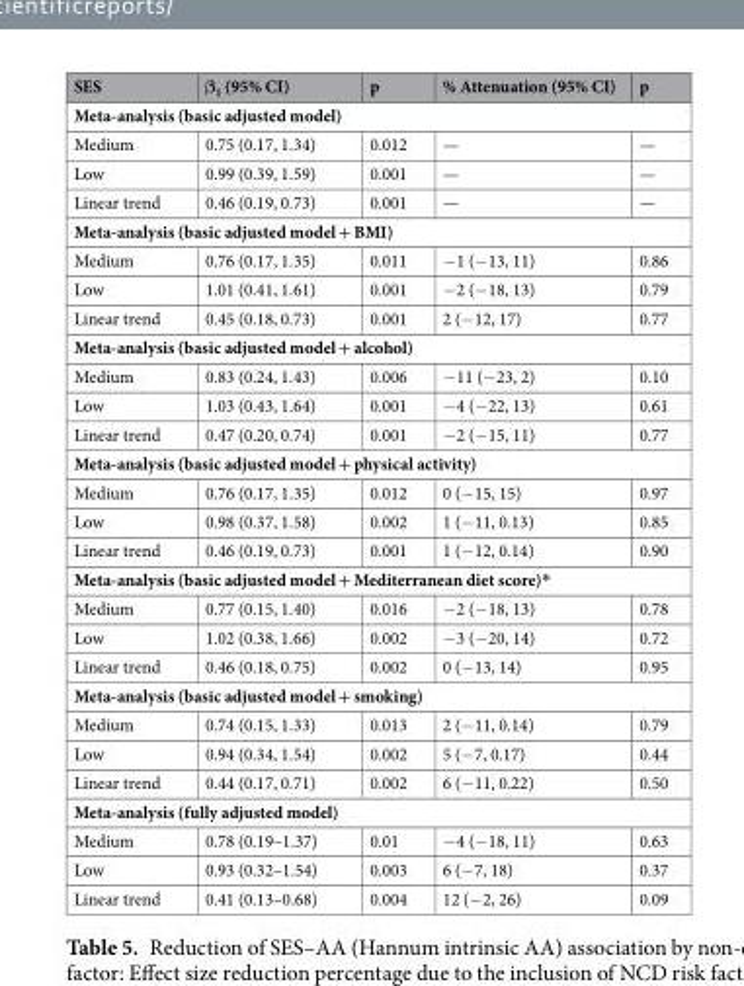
<table><thead><tr><td>SES</td><td>β<sub>1</sub> (95% CI)</td><td>p</td><td>% Attenuation (95% CI)</td><td>p</td></tr></thead><tbody><tr><td colspan="5">Meta-analysis (basic adjusted model)</td></tr><tr><td>Medium</td><td>0.75 (0.17, 1.34)</td><td>0.012</td><td>—</td><td>—</td></tr><tr><td>Low</td><td>0.99 (0.39, 1.59)</td><td>0.001</td><td>—</td><td>—</td></tr><tr><td>Linear trend</td><td>0.46 (0.19, 0.73)</td><td>0.001</td><td>—</td><td>—</td></tr><tr><td colspan="5">Meta-analysis (basic adjusted model + BMI)</td></tr><tr><td>Medium</td><td>0.76 (0.17, 1.35)</td><td>0.011</td><td>−1 (−13, 11)</td><td>0.86</td></tr><tr><td>Low</td><td>1.01 (0.41, 1.61)</td><td>0.001</td><td>−2 (−18, 13)</td><td>0.79</td></tr><tr><td>Linear trend</td><td>0.45 (0.18, 0.73)</td><td>0.001</td><td>2 (−12, 17)</td><td>0.77</td></tr><tr><td colspan="5">Meta-analysis (basic adjusted model + alcohol)</td></tr><tr><td>Medium</td><td>0.83 (0.24, 1.43)</td><td>0.006</td><td>−11 (−23, 2)</td><td>0.10</td></tr><tr><td>Low</td><td>1.03 (0.43, 1.64)</td><td>0.001</td><td>−4 (−22, 13)</td><td>0.61</td></tr><tr><td>Linear trend</td><td>0.47 (0.20, 0.74)</td><td>0.001</td><td>−2 (−15, 11)</td><td>0.77</td></tr><tr><td colspan="5">Meta-analysis (basic adjusted model + physical activity)</td></tr><tr><td>Medium</td><td>0.76 (0.17, 1.35)</td><td>0.012</td><td>0 (−15, 15)</td><td>0.97</td></tr><tr><td>Low</td><td>0.98 (0.37, 1.58)</td><td>0.002</td><td>1 (−11, 0.13)</td><td>0.85</td></tr><tr><td>Linear trend</td><td>0.46 (0.19, 0.73)</td><td>0.001</td><td>1 (−12, 0.14)</td><td>0.90</td></tr><tr><td colspan="5">Meta-analysis (basic adjusted model + Mediterranean diet score)*</td></tr><tr><td>Medium</td><td>0.77 (0.15, 1.40)</td><td>0.016</td><td>−2 (−18, 13)</td><td>0.78</td></tr><tr><td>Low</td><td>1.02 (0.38, 1.66)</td><td>0.002</td><td>−3 (−20, 14)</td><td>0.72</td></tr><tr><td>Linear trend</td><td>0.46 (0.18, 0.75)</td><td>0.002</td><td>0 (−13, 14)</td><td>0.95</td></tr><tr><td colspan="5">Meta-analysis (basic adjusted model + smoking)</td></tr><tr><td>Medium</td><td>0.74 (0.15, 1.33)</td><td>0.013</td><td>2 (−11, 0.14)</td><td>0.79</td></tr><tr><td>Low</td><td>0.94 (0.34, 1.54)</td><td>0.002</td><td>5 (−7, 0.17)</td><td>0.44</td></tr><tr><td>Linear trend</td><td>0.44 (0.17, 0.71)</td><td>0.002</td><td>6 (−11, 0.22)</td><td>0.50</td></tr><tr><td colspan="5">Meta-analysis (fully adjusted model)</td></tr><tr><td>Medium</td><td>0.78 (0.19–1.37)</td><td>0.01</td><td>−4 (−18, 11)</td><td>0.63</td></tr><tr><td>Low</td><td>0.93 (0.32–1.54)</td><td>0.003</td><td>6 (−7, 18)</td><td>0.37</td></tr><tr><td>Linear trend</td><td>0.41 (0.13–0.68)</td><td>0.004</td><td>12 (−2, 26)</td><td>0.09</td></tr></tbody></table>